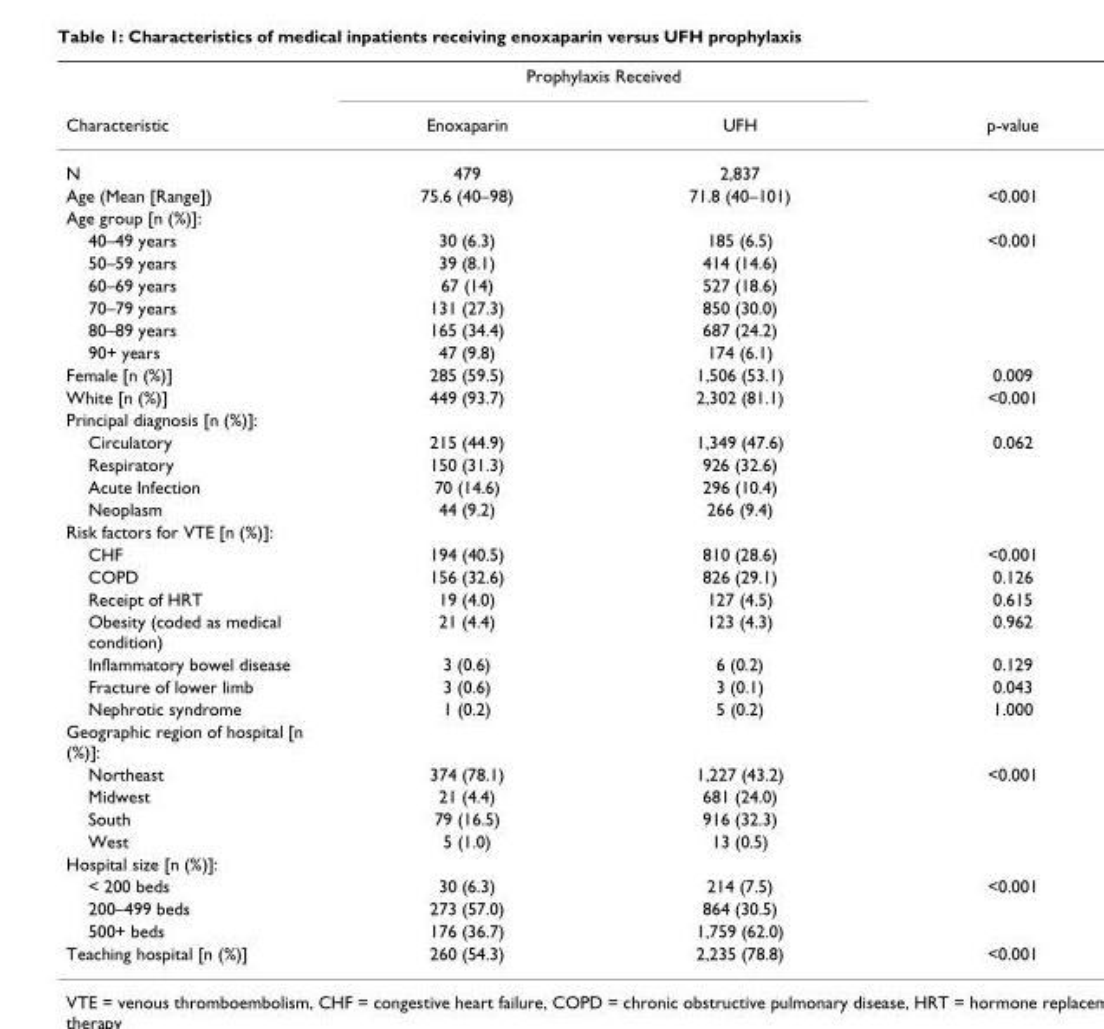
<table><thead><tr><td rowspan="2">Characteristic</td><td colspan="2">Prophylaxis Received</td><td rowspan="2">p-value</td></tr><tr><td>Enoxaparin</td><td>UFH</td></tr></thead><tbody><tr><td>N</td><td>479</td><td>2,837</td><td></td></tr><tr><td>Age (Mean [Range])</td><td>75.6 (40–98)</td><td>71.8 (40–101)</td><td>&lt;0.001</td></tr><tr><td colspan="4">Age group [n (%)]:</td></tr><tr><td>40–49 years</td><td>30 (6.3)</td><td>185 (6.5)</td><td>&lt;0.001</td></tr><tr><td>50–59 years</td><td>39 (8.1)</td><td>414 (14.6)</td><td></td></tr><tr><td>60–69 years</td><td>67 (14)</td><td>527 (18.6)</td><td></td></tr><tr><td>70–79 years</td><td>131 (27.3)</td><td>850 (30.0)</td><td></td></tr><tr><td>80–89 years</td><td>165 (34.4)</td><td>687 (24.2)</td><td></td></tr><tr><td>90+ years</td><td>47 (9.8)</td><td>174 (6.1)</td><td></td></tr><tr><td>Female [n (%)]</td><td>285 (59.5)</td><td>1,506 (53.1)</td><td>0.009</td></tr><tr><td>White [n (%)]</td><td>449 (93.7)</td><td>2,302 (81.1)</td><td>&lt;0.001</td></tr><tr><td colspan="4">Principal diagnosis [n (%)]:</td></tr><tr><td>Circulatory</td><td>215 (44.9)</td><td>1,349 (47.6)</td><td>0.062</td></tr><tr><td>Respiratory</td><td>150 (31.3)</td><td>926 (32.6)</td><td></td></tr><tr><td>Acute Infection</td><td>70 (14.6)</td><td>296 (10.4)</td><td></td></tr><tr><td>Neoplasm</td><td>44 (9.2)</td><td>266 (9.4)</td><td></td></tr><tr><td colspan="4">Risk factors for VTE [n (%)]:</td></tr><tr><td>CHF</td><td>194 (40.5)</td><td>810 (28.6)</td><td>&lt;0.001</td></tr><tr><td>COPD</td><td>156 (32.6)</td><td>826 (29.1)</td><td>0.126</td></tr><tr><td>Receipt of HRT</td><td>19 (4.0)</td><td>127 (4.5)</td><td>0.615</td></tr><tr><td>Obesity (coded as medical condition)</td><td>21 (4.4)</td><td>123 (4.3)</td><td>0.962</td></tr><tr><td>Inflammatory bowel disease</td><td>3 (0.6)</td><td>6 (0.2)</td><td>0.129</td></tr><tr><td>Fracture of lower limb</td><td>3 (0.6)</td><td>3 (0.1)</td><td>0.043</td></tr><tr><td>Nephrotic syndrome</td><td>1 (0.2)</td><td>5 (0.2)</td><td>1.000</td></tr><tr><td colspan="4">Geographic region of hospital [n (%)]:</td></tr><tr><td>Northeast</td><td>374 (78.1)</td><td>1,227 (43.2)</td><td>&lt;0.001</td></tr><tr><td>Midwest</td><td>21 (4.4)</td><td>681 (24.0)</td><td></td></tr><tr><td>South</td><td>79 (16.5)</td><td>916 (32.3)</td><td></td></tr><tr><td>West</td><td>5 (1.0)</td><td>13 (0.5)</td><td></td></tr><tr><td colspan="4">Hospital size [n (%)]:</td></tr><tr><td>&lt; 200 beds</td><td>30 (6.3)</td><td>214 (7.5)</td><td>&lt;0.001</td></tr><tr><td>200–499 beds</td><td>273 (57.0)</td><td>864 (30.5)</td><td></td></tr><tr><td>500+ beds</td><td>176 (36.7)</td><td>1,759 (62.0)</td><td></td></tr><tr><td>Teaching hospital [n (%)]</td><td>260 (54.3)</td><td>2,235 (78.8)</td><td>&lt;0.001</td></tr></tbody></table>